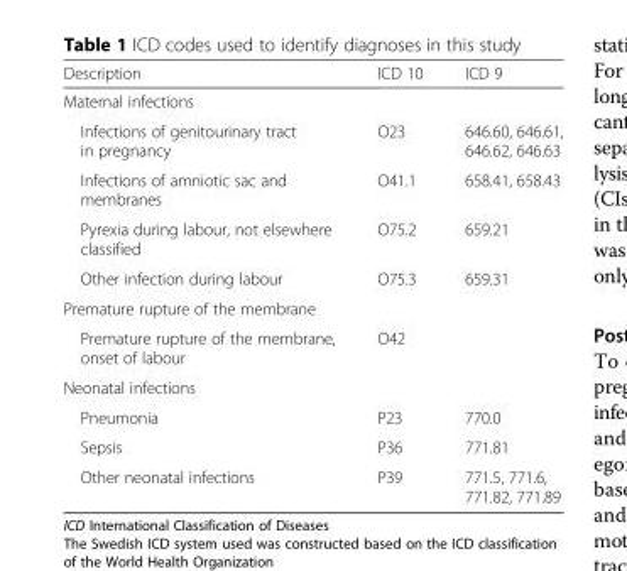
<table><thead><tr><td>Description</td><td>ICD 10</td><td>ICD 9</td></tr></thead><tbody><tr><td colspan="3">Maternal infections</td></tr><tr><td>Infections of genitourinary tract in pregnancy</td><td>O23</td><td>646.60, 646.61, 646.62, 646.63</td></tr><tr><td>Infections of amniotic sac and membranes</td><td>O41.1</td><td>658.41, 658.43</td></tr><tr><td>Pyrexia during labour, not elsewhere classified</td><td>O75.2</td><td>659.21</td></tr><tr><td>Other infection during labour</td><td>O75.3</td><td>659.31</td></tr><tr><td colspan="3">Premature rupture of the membrane</td></tr><tr><td>Premature rupture of the membrane, onset of labour</td><td>O42</td><td></td></tr><tr><td colspan="3">Neonatal infections</td></tr><tr><td>Pneumonia</td><td>P23</td><td>770.0</td></tr><tr><td>Sepsis</td><td>P36</td><td>771.81</td></tr><tr><td>Other neonatal infections</td><td>P39</td><td>771.5, 771.6, 771.82, 771.89</td></tr></tbody></table>